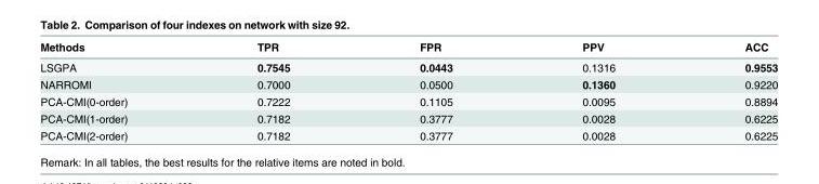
<table><thead><tr><td>Methods</td><td>TPR</td><td>FPR</td><td>PPV</td><td>ACC</td></tr></thead><tbody><tr><td>LSGPA</td><td>0.7545</td><td>0.0443</td><td>0.1316</td><td>0.9553</td></tr><tr><td>NARROMI</td><td>0.7000</td><td>0.0500</td><td>0.1360</td><td>0.9220</td></tr><tr><td>PCA-CMI(0-order)</td><td>0.7222</td><td>0.1105</td><td>0.0095</td><td>0.8894</td></tr><tr><td>PCA-CMI(1-order)</td><td>0.7182</td><td>0.3777</td><td>0.0028</td><td>0.6225</td></tr><tr><td>PCA-CMI(2-order)</td><td>0.7182</td><td>0.3777</td><td>0.0028</td><td>0.6225</td></tr></tbody></table>